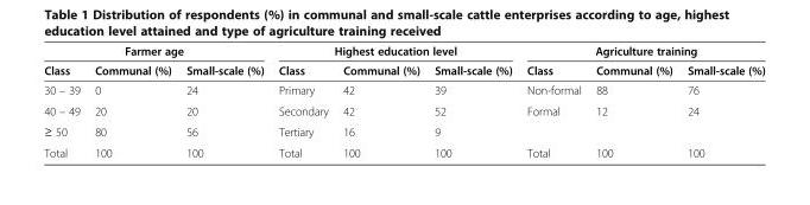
<table><thead><tr><td colspan="3">Farmer age</td><td colspan="3">Highest education level</td><td colspan="3">Agriculture training</td></tr><tr><td>Class</td><td>Communal (%)</td><td>Small-scale (%)</td><td>Class</td><td>Communal (%)</td><td>Small-scale (%)</td><td>Class</td><td>Communal (%)</td><td>Small-scale (%)</td></tr></thead><tbody><tr><td>30 – 39</td><td>0</td><td>24</td><td>Primary</td><td>42</td><td>39</td><td>Non-formal</td><td>88</td><td>76</td></tr><tr><td>40 – 49</td><td>20</td><td>20</td><td>Secondary</td><td>42</td><td>52</td><td>Formal</td><td>12</td><td>24</td></tr><tr><td>≥ 50</td><td>80</td><td>56</td><td>Tertiary</td><td>16</td><td>9</td><td></td><td></td><td></td></tr><tr><td>Total</td><td>100</td><td>100</td><td>Total</td><td>100</td><td>100</td><td>Total</td><td>100</td><td>100</td></tr></tbody></table>